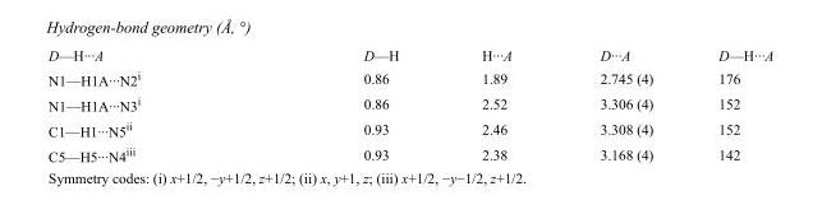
<table><tbody><tr><td>D—H···A</td><td>D—H</td><td>H···A</td><td>D···A</td><td>D—H···A</td></tr><tr><td>N1—H1A···N2<sup>i</sup></td><td>0.86</td><td>1.89</td><td>2.745 (4)</td><td>176</td></tr><tr><td>N1—H1A···N3<sup>i</sup></td><td>0.86</td><td>2.52</td><td>3.306 (4)</td><td>152</td></tr><tr><td>C1—H1···N5<sup>ii</sup></td><td>0.93</td><td>2.46</td><td>3.308 (4)</td><td>152</td></tr><tr><td>C5—H5···N4<sup>iii</sup></td><td>0.93</td><td>2.38</td><td>3.168 (4)</td><td>142</td></tr></tbody></table>